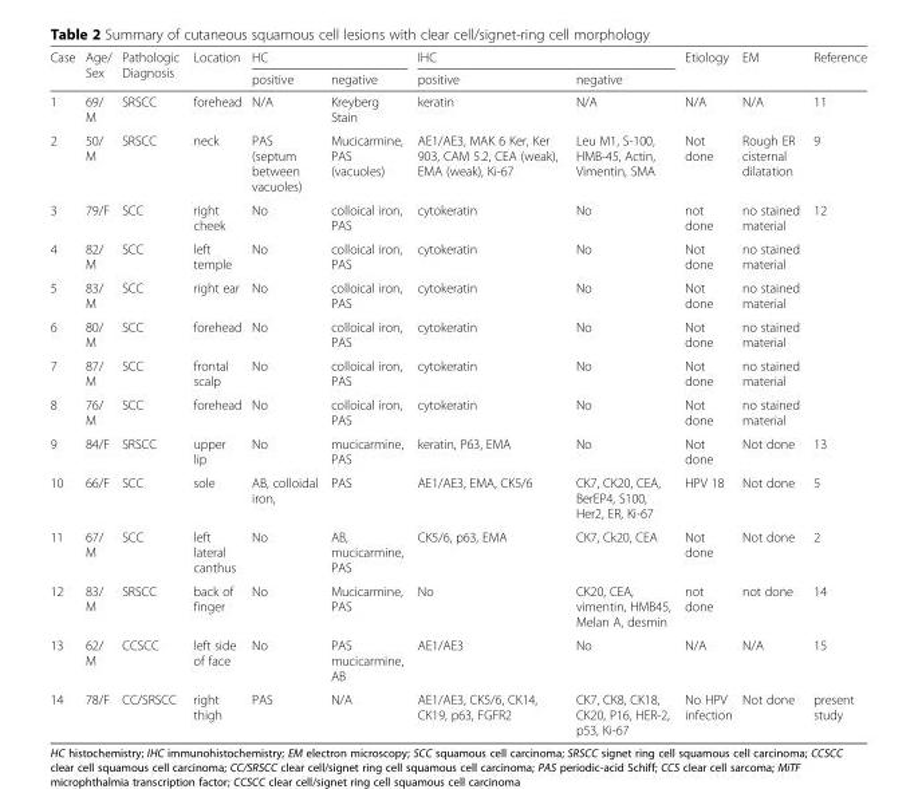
<table><thead><tr><td rowspan="2">Case</td><td rowspan="2">Age/ Sex</td><td rowspan="2">Pathologic Diagnosis</td><td rowspan="2">Location</td><td colspan="2">HC</td><td colspan="2">IHC</td><td rowspan="2">Etiology</td><td rowspan="2">EM</td><td rowspan="2">Reference</td></tr><tr><td>positive</td><td>negative</td><td>positive</td><td>negative</td></tr></thead><tbody><tr><td>1</td><td>69/ M</td><td>SRSCC</td><td>forehead</td><td>N/A</td><td>Kreyberg Stain</td><td>keratin</td><td>N/A</td><td>N/A</td><td>N/A</td><td>11</td></tr><tr><td>2</td><td>50/ M</td><td>SRSCC</td><td>neck</td><td>PAS (septum between vacuoles)</td><td>Mucicarmine, PAS (vacuoles)</td><td>AE1/AE3, MAK 6 Ker, Ker 903, CAM 5.2, CEA (weak), EMA (weak), Ki-67</td><td>Leu M1, S-100, HMB-45, Actin, Vimentin, SMA</td><td>Not done</td><td>Rough ER cisternal dilatation</td><td>9</td></tr><tr><td>3</td><td>79/F</td><td>SCC</td><td>right cheek</td><td>No</td><td>colloical iron, PAS</td><td>cytokeratin</td><td>No</td><td>not done</td><td>no stained material</td><td rowspan="6">12</td></tr><tr><td>4</td><td>82/ M</td><td>SCC</td><td>left temple</td><td>No</td><td>colloical iron, PAS</td><td>cytokeratin</td><td>No</td><td>Not done</td><td>no stained material</td></tr><tr><td>5</td><td>83/ M</td><td>SCC</td><td>right ear</td><td>No</td><td>colloical iron, PAS</td><td>cytokeratin</td><td>No</td><td>Not done</td><td>no stained material</td></tr><tr><td>6</td><td>80/ M</td><td>SCC</td><td>forehead</td><td>No</td><td>colloical iron, PAS</td><td>cytokeratin</td><td>No</td><td>Not done</td><td>no stained material</td></tr><tr><td>7</td><td>87/ M</td><td>SCC</td><td>frontal scalp</td><td>No</td><td>colloical iron, PAS</td><td>cytokeratin</td><td>No</td><td>Not done</td><td>no stained material</td></tr><tr><td>8</td><td>76/ M</td><td>SCC</td><td>forehead</td><td>No</td><td>colloical iron, PAS</td><td>cytokeratin</td><td>No</td><td>Not done</td><td>no stained material</td></tr><tr><td>9</td><td>84/F</td><td>SRSCC</td><td>upper lip</td><td>No</td><td>mucicarmine, PAS</td><td>keratin, P63, EMA</td><td>No</td><td>Not done</td><td>Not done</td><td>13</td></tr><tr><td>10</td><td>66/F</td><td>SCC</td><td>sole</td><td>AB, colloidal iron,</td><td>PAS</td><td>AE1/AE3, EMA, CK5/6</td><td>CK7, CK20, CEA, BerEP4, S100, Her2, ER, Ki-67</td><td>HPV 18</td><td>Not done</td><td>5</td></tr><tr><td>11</td><td>67/ M</td><td>SCC</td><td>left lateral canthus</td><td>No</td><td>AB, mucicarmine, PAS</td><td>CK5/6, p63, EMA</td><td>CK7, Ck20, CEA</td><td>Not done</td><td>Not done</td><td>2</td></tr><tr><td>12</td><td>83/ M</td><td>SRSCC</td><td>back of finger</td><td>No</td><td>Mucicarmine, PAS</td><td>No</td><td>CK20, CEA, vimentin, HMB45, Melan A, desmin</td><td>not done</td><td>not done</td><td>14</td></tr><tr><td>13</td><td>62/ M</td><td>CCSCC</td><td>left side of face</td><td>No</td><td>PAS mucicarmine, AB</td><td>AE1/AE3</td><td>No</td><td>N/A</td><td>N/A</td><td>15</td></tr><tr><td>14</td><td>78/F</td><td>CC/SRSCC</td><td>right thigh</td><td>PAS</td><td>N/A</td><td>AE1/AE3, CK5/6, CK14, CK19, p63, FGFR2</td><td>CK7, CK8, CK18, CK20, P16, HER-2, p53, Ki-67</td><td>No HPV infection</td><td>Not done</td><td>present study</td></tr></tbody></table>